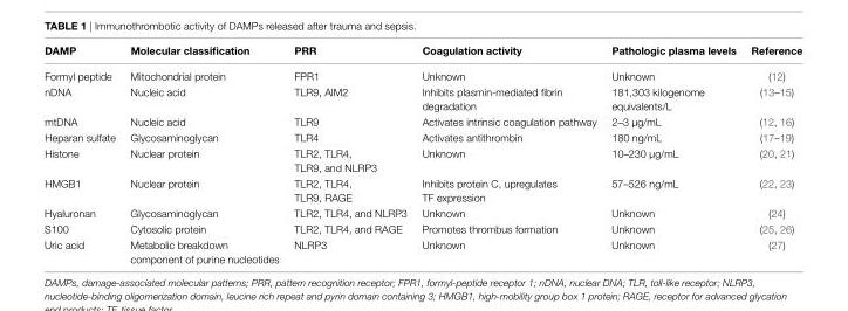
<table><thead><tr><td>DAMP</td><td>Molecular classification</td><td>PRR</td><td>Coagulation activity</td><td>Pathologic plasma levels</td><td>Reference</td></tr></thead><tbody><tr><td>Formyl peptide</td><td>Mitochondrial protein</td><td>FPR1</td><td>Unknown</td><td>Unknown</td><td>(12)</td></tr><tr><td>nDNA</td><td>Nucleic acid</td><td>TLR9, AIM2</td><td>Inhibits plasmin-mediated fibrin degradation</td><td>181,303 kilogenome equivalents/L</td><td>(13–15)</td></tr><tr><td>mtDNA</td><td>Nucleic acid</td><td>TLR9</td><td>Activates intrinsic coagulation pathway</td><td>2–3 µg/mL</td><td>(12, 16)</td></tr><tr><td>Heparan sulfate</td><td>Glycosaminoglycan</td><td>TLR4</td><td>Activates antithrombin</td><td>180 ng/mL</td><td>(17–19)</td></tr><tr><td>Histone</td><td>Nuclear protein</td><td>TLR2, TLR4, TLR9, and NLRP3</td><td>Unknown</td><td>10–230 µg/mL</td><td>(20, 21)</td></tr><tr><td>HMGB1</td><td>Nuclear protein</td><td>TLR2, TLR4, TLR9, RAGE</td><td>Inhibits protein C, upregulates TF expression</td><td>57–526 ng/mL</td><td>(22, 23)</td></tr><tr><td>Hyaluronan</td><td>Glycosaminoglycan</td><td>TLR2, TLR4, and NLRP3</td><td>Unknown</td><td>Unknown</td><td>(24)</td></tr><tr><td>S100</td><td>Cytosolic protein</td><td>TLR2, TLR4, and RAGE</td><td>Promotes thrombus formation</td><td>Unknown</td><td>(25, 26)</td></tr><tr><td>Uric acid</td><td>Metabolic breakdown component of purine nucleotides</td><td>NLRP3</td><td>Unknown</td><td>Unknown</td><td>(27)</td></tr></tbody></table>